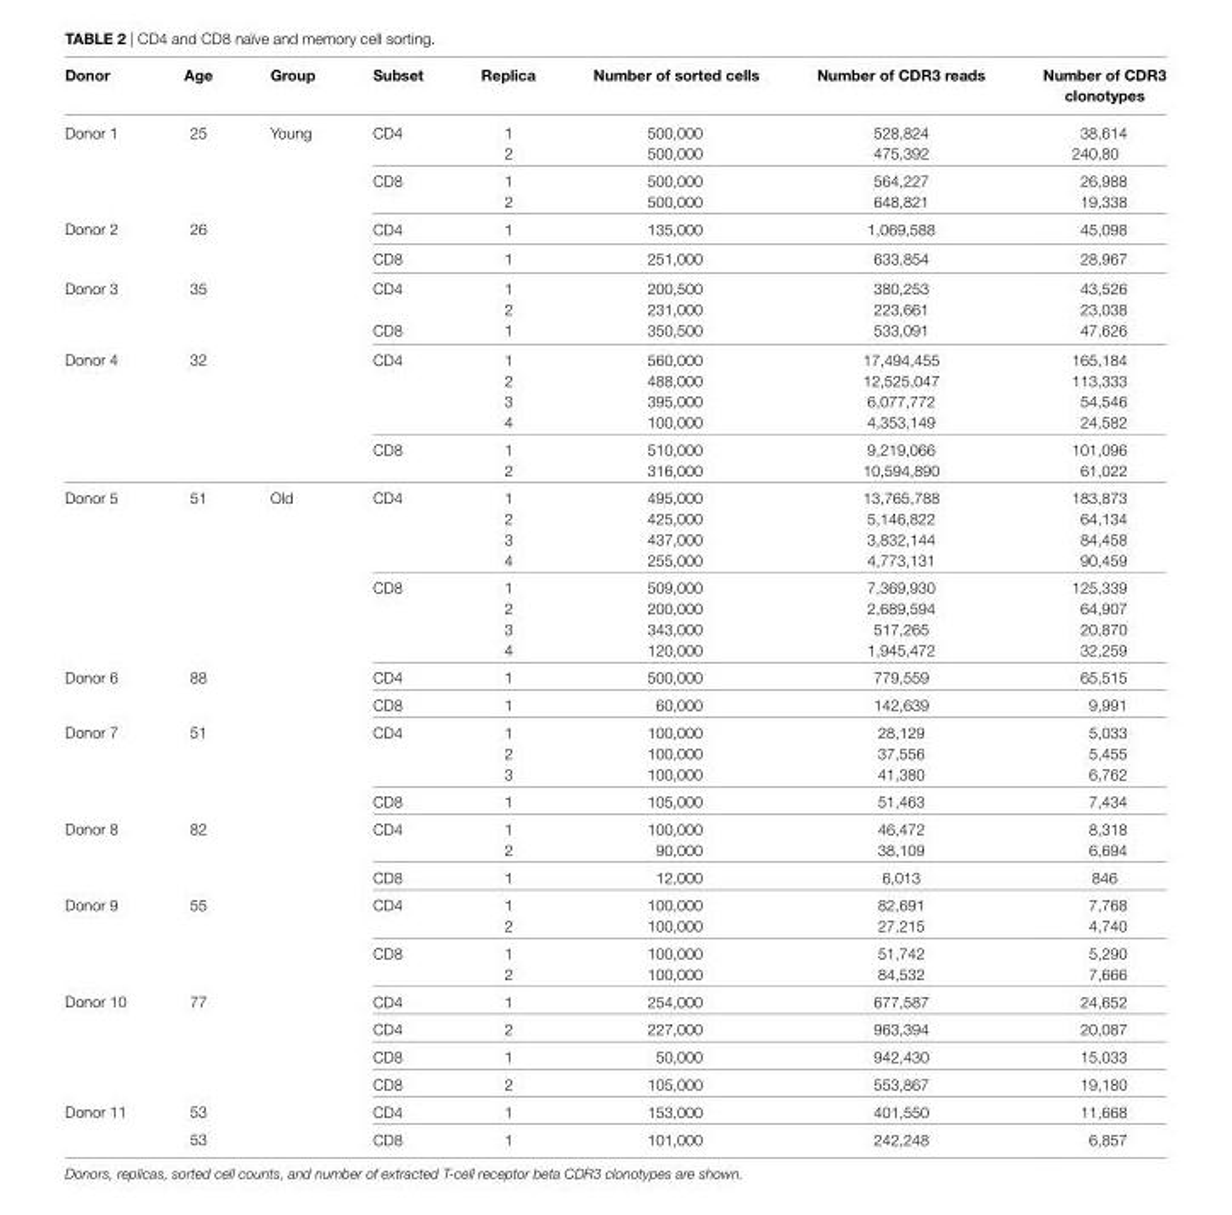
<table><thead><tr><td>Donor</td><td>age</td><td>group</td><td>subset</td><td>replica</td><td>number of sorted cells</td><td>number of cDr3 reads</td><td>number of cDr3 clonotypes</td></tr></thead><tbody><tr><td rowspan="4">Donor 1</td><td>25</td><td>Young</td><td>CD4</td><td>1</td><td>500,000</td><td>528,824</td><td>38,614</td></tr><tr><td></td><td></td><td></td><td>2</td><td>500,000</td><td>475,392</td><td>240,80</td></tr><tr><td></td><td></td><td>CD8</td><td>1</td><td>500,000</td><td>564,227</td><td>26,988</td></tr><tr><td></td><td></td><td></td><td>2</td><td>500,000</td><td>648,821</td><td>19,338</td></tr><tr><td rowspan="2">Donor 2</td><td>26</td><td></td><td>CD4</td><td>1</td><td>135,000</td><td>1,069,588</td><td>45,098</td></tr><tr><td></td><td></td><td>CD8</td><td>1</td><td>251,000</td><td>633,854</td><td>28,967</td></tr><tr><td rowspan="3">Donor 3</td><td>35</td><td></td><td>CD4</td><td>1</td><td>200,500</td><td>380,253</td><td>43,526</td></tr><tr><td></td><td></td><td></td><td>2</td><td>231,000</td><td>223,661</td><td>23,038</td></tr><tr><td></td><td></td><td>CD8</td><td>1</td><td>350,500</td><td>533,091</td><td>47,626</td></tr><tr><td rowspan="6">Donor 4</td><td>32</td><td></td><td>CD4</td><td>1</td><td>560,000</td><td>17,494,455</td><td>165,184</td></tr><tr><td></td><td></td><td></td><td>2</td><td>488,000</td><td>12,525,047</td><td>113,333</td></tr><tr><td></td><td></td><td></td><td>3</td><td>395,000</td><td>6,077,772</td><td>54,546</td></tr><tr><td></td><td></td><td></td><td>4</td><td>100,000</td><td>4,353,149</td><td>24,582</td></tr><tr><td></td><td></td><td>CD8</td><td>1</td><td>510,000</td><td>9,219,066</td><td>101,096</td></tr><tr><td></td><td></td><td></td><td>2</td><td>316,000</td><td>10,594,890</td><td>61,022</td></tr><tr><td rowspan="8">Donor 5</td><td>51</td><td>Old</td><td>CD4</td><td>1</td><td>495,000</td><td>13,765,788</td><td>183,873</td></tr><tr><td></td><td></td><td></td><td>2</td><td>425,000</td><td>5,146,822</td><td>64,134</td></tr><tr><td></td><td></td><td></td><td>3</td><td>437,000</td><td>3,832,144</td><td>84,458</td></tr><tr><td></td><td></td><td></td><td>4</td><td>255,000</td><td>4,773,131</td><td>90,459</td></tr><tr><td></td><td></td><td>CD8</td><td>1</td><td>509,000</td><td>7,369,930</td><td>125,339</td></tr><tr><td></td><td></td><td></td><td>2</td><td>200,000</td><td>2,689,594</td><td>64,907</td></tr><tr><td></td><td></td><td></td><td>3</td><td>343,000</td><td>517,265</td><td>20,870</td></tr><tr><td></td><td></td><td></td><td>4</td><td>120,000</td><td>1,945,472</td><td>32,259</td></tr><tr><td rowspan="2">Donor 6</td><td>88</td><td></td><td>CD4</td><td>1</td><td>500,000</td><td>779,559</td><td>65,515</td></tr><tr><td></td><td></td><td>CD8</td><td>1</td><td>60,000</td><td>142,639</td><td>9,991</td></tr><tr><td rowspan="4">Donor 7</td><td>51</td><td></td><td>CD4</td><td>1</td><td>100,000</td><td>28,129</td><td>5,033</td></tr><tr><td></td><td></td><td></td><td>2</td><td>100,000</td><td>37,556</td><td>5,455</td></tr><tr><td></td><td></td><td></td><td>3</td><td>100,000</td><td>41,380</td><td>6,762</td></tr><tr><td></td><td></td><td>CD8</td><td>1</td><td>105,000</td><td>51,463</td><td>7,434</td></tr><tr><td rowspan="3">Donor 8</td><td>82</td><td></td><td>CD4</td><td>1</td><td>100,000</td><td>46,472</td><td>8,318</td></tr><tr><td></td><td></td><td></td><td>2</td><td>90,000</td><td>38,109</td><td>6,694</td></tr><tr><td></td><td></td><td>CD8</td><td>1</td><td>12,000</td><td>6,013</td><td>846</td></tr><tr><td rowspan="4">Donor 9</td><td>55</td><td></td><td>CD4</td><td>1</td><td>100,000</td><td>82,691</td><td>7,768</td></tr><tr><td></td><td></td><td></td><td>2</td><td>100,000</td><td>27,215</td><td>4,740</td></tr><tr><td></td><td></td><td>CD8</td><td>1</td><td>100,000</td><td>51,742</td><td>5,290</td></tr><tr><td></td><td></td><td></td><td>2</td><td>100,000</td><td>84,532</td><td>7,666</td></tr><tr><td rowspan="4">Donor 10</td><td>77</td><td></td><td>CD4</td><td>1</td><td>254,000</td><td>677,587</td><td>24,652</td></tr><tr><td></td><td></td><td>CD4</td><td>2</td><td>227,000</td><td>963,394</td><td>20,087</td></tr><tr><td></td><td></td><td>CD8</td><td>1</td><td>50,000</td><td>942,430</td><td>15,033</td></tr><tr><td></td><td></td><td>CD8</td><td>2</td><td>105,000</td><td>553,867</td><td>19,180</td></tr><tr><td rowspan="2">Donor 11</td><td>53</td><td></td><td>CD4</td><td>1</td><td>153,000</td><td>401,550</td><td>11,668</td></tr><tr><td>53</td><td></td><td>CD8</td><td>1</td><td>101,000</td><td>242,248</td><td>6,857</td></tr></tbody></table>